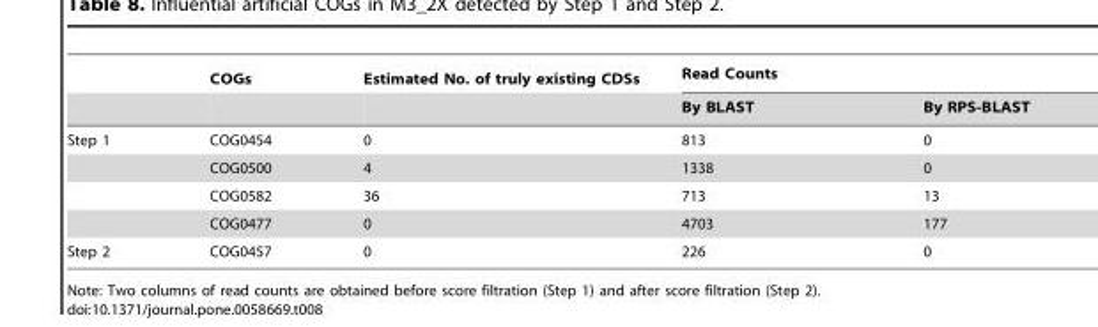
<table><thead><tr><td rowspan="2"></td><td rowspan="2">COGs</td><td rowspan="2">Estimated No. of truly existing CDSs</td><td colspan="2">Read Counts</td></tr><tr><td>By BLAST</td><td>By RPS-BLAST</td></tr></thead><tbody><tr><td rowspan="4">Step 1</td><td>COG0454</td><td>0</td><td>813</td><td>0</td></tr><tr><td>COG0500</td><td>4</td><td>1338</td><td>0</td></tr><tr><td>COG0582</td><td>36</td><td>713</td><td>13</td></tr><tr><td>COG0477</td><td>0</td><td>4703</td><td>177</td></tr><tr><td>Step 2</td><td>COG0457</td><td>0</td><td>226</td><td>0</td></tr></tbody></table>